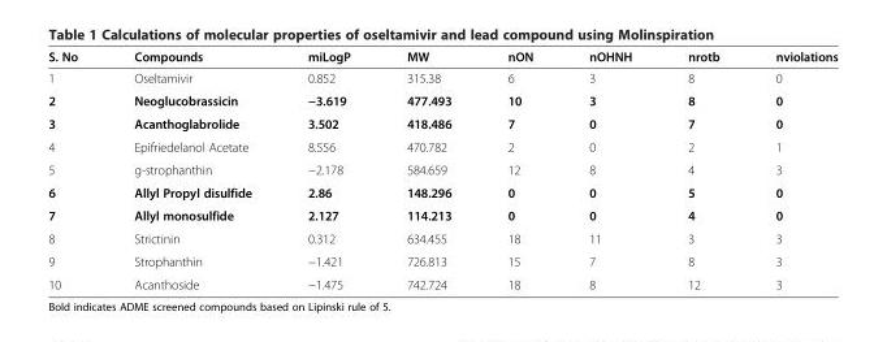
<table><thead><tr><td>S. No</td><td>Compounds</td><td>miLogP</td><td>MW</td><td>nON</td><td>nOHNH</td><td>nrotb</td><td>nviolations</td></tr></thead><tbody><tr><td>1</td><td>Oseltamivir</td><td>0.852</td><td>315.38</td><td>6</td><td>3</td><td>8</td><td>0</td></tr><tr><td>2</td><td>Neoglucobrassicin</td><td>−3.619</td><td>477.493</td><td>10</td><td>3</td><td>8</td><td>0</td></tr><tr><td>3</td><td>Acanthoglabrolide</td><td>3.502</td><td>418.486</td><td>7</td><td>0</td><td>7</td><td>0</td></tr><tr><td>4</td><td>Epifriedelanol Acetate</td><td>8.556</td><td>470.782</td><td>2</td><td>0</td><td>2</td><td>1</td></tr><tr><td>5</td><td>g-strophanthin</td><td>−2.178</td><td>584.659</td><td>12</td><td>8</td><td>4</td><td>3</td></tr><tr><td>6</td><td>Allyl Propyl disulfide</td><td>2.86</td><td>148.296</td><td>0</td><td>0</td><td>5</td><td>0</td></tr><tr><td>7</td><td>Allyl monosulfide</td><td>2.127</td><td>114.213</td><td>0</td><td>0</td><td>4</td><td>0</td></tr><tr><td>8</td><td>Strictinin</td><td>0.312</td><td>634.455</td><td>18</td><td>11</td><td>3</td><td>3</td></tr><tr><td>9</td><td>Strophanthin</td><td>−1.421</td><td>726.813</td><td>15</td><td>7</td><td>8</td><td>3</td></tr><tr><td>10</td><td>Acanthoside</td><td>−1.475</td><td>742.724</td><td>18</td><td>8</td><td>12</td><td>3</td></tr></tbody></table>